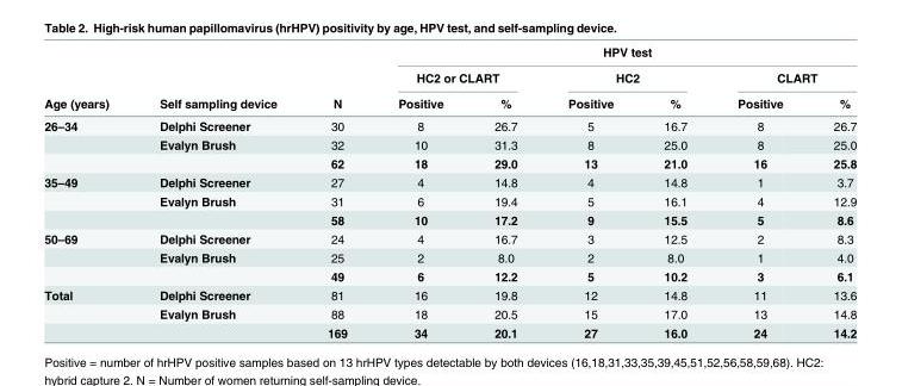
<table><thead><tr><td rowspan="3">Age (years)</td><td rowspan="3">Self sampling device</td><td rowspan="3">N</td><td colspan="6">HPV test</td></tr><tr><td colspan="2">HC2 or CLART</td><td colspan="2">HC2</td><td colspan="2">CLART</td></tr><tr><td>Positive</td><td>%</td><td>Positive</td><td>%</td><td>Positive</td><td>%</td></tr></thead><tbody><tr><td rowspan="3">26–34</td><td>Delphi Screener</td><td>30</td><td>8</td><td>26.7</td><td>5</td><td>16.7</td><td>8</td><td>26.7</td></tr><tr><td>Evalyn Brush</td><td>32</td><td>10</td><td>31.3</td><td>8</td><td>25.0</td><td>8</td><td>25.0</td></tr><tr><td></td><td>62</td><td>18</td><td>29.0</td><td>13</td><td>21.0</td><td>16</td><td>25.8</td></tr><tr><td rowspan="3">35–49</td><td>Delphi Screener</td><td>27</td><td>4</td><td>14.8</td><td>4</td><td>14.8</td><td>1</td><td>3.7</td></tr><tr><td>Evalyn Brush</td><td>31</td><td>6</td><td>19.4</td><td>5</td><td>16.1</td><td>4</td><td>12.9</td></tr><tr><td></td><td>58</td><td>10</td><td>17.2</td><td>9</td><td>15.5</td><td>5</td><td>8.6</td></tr><tr><td rowspan="3">50–69</td><td>Delphi Screener</td><td>24</td><td>4</td><td>16.7</td><td>3</td><td>12.5</td><td>2</td><td>8.3</td></tr><tr><td>Evalyn Brush</td><td>25</td><td>2</td><td>8.0</td><td>2</td><td>8.0</td><td>1</td><td>4.0</td></tr><tr><td></td><td>49</td><td>6</td><td>12.2</td><td>5</td><td>10.2</td><td>3</td><td>6.1</td></tr><tr><td rowspan="3">Total</td><td>Delphi Screener</td><td>81</td><td>16</td><td>19.8</td><td>12</td><td>14.8</td><td>11</td><td>13.6</td></tr><tr><td>Evalyn Brush</td><td>88</td><td>18</td><td>20.5</td><td>15</td><td>17.0</td><td>13</td><td>14.8</td></tr><tr><td></td><td>169</td><td>34</td><td>20.1</td><td>27</td><td>16.0</td><td>24</td><td>14.2</td></tr></tbody></table>